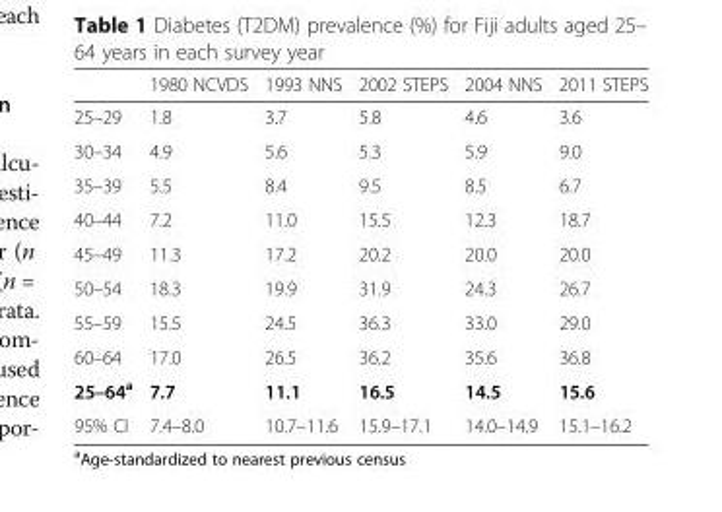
<table><thead><tr><td></td><td>1980 NCVDS</td><td>1993 NNS</td><td>2002 STEPS</td><td>2004 NNS</td><td>2011 STEPS</td></tr></thead><tbody><tr><td>25–29</td><td>1.8</td><td>3.7</td><td>5.8</td><td>4.6</td><td>3.6</td></tr><tr><td>30–34</td><td>4.9</td><td>5.6</td><td>5.3</td><td>5.9</td><td>9.0</td></tr><tr><td>35–39</td><td>5.5</td><td>8.4</td><td>9.5</td><td>8.5</td><td>6.7</td></tr><tr><td>40–44</td><td>7.2</td><td>11.0</td><td>15.5</td><td>12.3</td><td>18.7</td></tr><tr><td>45–49</td><td>11.3</td><td>17.2</td><td>20.2</td><td>20.0</td><td>20.0</td></tr><tr><td>50–54</td><td>18.3</td><td>19.9</td><td>31.9</td><td>24.3</td><td>26.7</td></tr><tr><td>55–59</td><td>15.5</td><td>24.5</td><td>36.3</td><td>33.0</td><td>29.0</td></tr><tr><td>60–64</td><td>17.0</td><td>26.5</td><td>36.2</td><td>35.6</td><td>36.8</td></tr><tr><td>25–64<sup>a</sup></td><td>7.7</td><td>11.1</td><td>16.5</td><td>14.5</td><td>15.6</td></tr><tr><td>95% CI</td><td>7.4–8.0</td><td>10.7–11.6</td><td>15.9–17.1</td><td>14.0–14.9</td><td>15.1–16.2</td></tr></tbody></table>